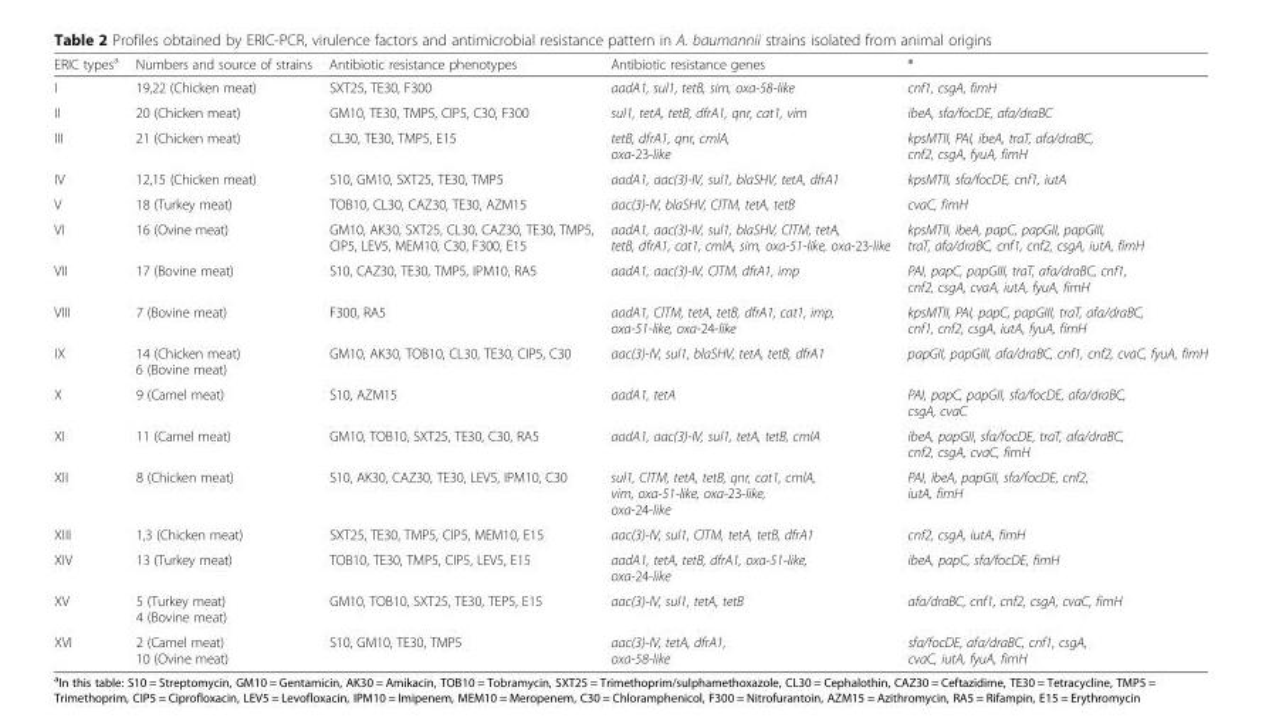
<table><thead><tr><td>ERIC types<sup>a</sup></td><td>Numbers and source of strains</td><td>Antibiotic resistance phenotypes</td><td>Antibiotic resistance genes</td><td>®</td></tr></thead><tbody><tr><td>I</td><td>19,22 (Chicken meat)</td><td>SXT25, TE30, F300</td><td>aadA1, sul1, tetB, sim, oxa-58-like</td><td>cnf1, csgA, fimH</td></tr><tr><td>II</td><td>20 (Chicken meat)</td><td>GM10, TE30, TMP5, CIP5, C30, F300</td><td>sul1, tetA, tetB, dfrA1, qnr, cat1, vim</td><td>ibeA, sfa/focDE, afa/draBC</td></tr><tr><td>III</td><td>21 (Chicken meat)</td><td>CL30, TE30, TMP5, E15</td><td>tetB, dfrA1, qnr, cmlA, oxa-23-like</td><td>kpsMTII, PAI, ibeA, traT, afa/draBC, cnf2, csgA, fyuA, fimH</td></tr><tr><td>IV</td><td>12,15 (Chicken meat)</td><td>S10, GM10, SXT25, TE30, TMP5</td><td>aadA1, aac(3)-IV, sul1, blaSHV, tetA, dfrA1</td><td>kpsMTII, sfa/focDE, cnf1, iutA</td></tr><tr><td>V</td><td>18 (Turkey meat)</td><td>TOB10, CL30, CAZ30, TE30, AZM15</td><td>aac(3)-IV, blaSHV, ClTM, tetA, tetB</td><td>cvaC, fimH</td></tr><tr><td>VI</td><td>16 (Ovine meat)</td><td>GM10, AK30, SXT25, CL30, CAZ30, TE30, TMP5, CIP5, LEV5, MEM10, C30, F300, E15</td><td>aadA1, aac(3)-IV, sul1, blaSHV, ClTM, tetA, tetB, dfrA1, cat1, cmlA, sim, oxa-51-like, oxa-23-like</td><td>kpsMTII, ibeA, papC, papGII, papGIII, traT, afa/draBC, cnf1, cnf2, csgA, iutA, fimH</td></tr><tr><td>VII</td><td>17 (Bovine meat)</td><td>S10, CAZ30, TE30, TMP5, IPM10, RA5</td><td>aadA1, aac(3)-IV, ClTM, dfrA1, imp</td><td>PAI, papC, papGIII, traT, afa/draBC, cnf1, cnf2, csgA, cvaA, iutA, fyuA, fimH</td></tr><tr><td>VIII</td><td>7 (Bovine meat)</td><td>F300, RA5</td><td>aadA1, ClTM, tetA, tetB, dfrA1, cat1, imp, oxa-51-like, oxa-24-like</td><td>kpsMTII, PAI, papC, papGIII, traT, afa/draBC, cnf1, cnf2, csgA, iutA, fyuA, fimH</td></tr><tr><td>IX</td><td>14 (Chicken meat) 6 (Bovine meat)</td><td>GM10, AK30, TOB10, CL30, TE30, CIP5, C30</td><td>aac(3)-IV, sul1, blaSHV, tetA, tetB, dfrA1</td><td>papGII, papGIII, afa/draBC, cnf1, cnf2, cvaC, fyuA, fimH</td></tr><tr><td>X</td><td>9 (Camel meat)</td><td>S10, AZM15</td><td>aadA1, tetA</td><td>PAI, papC, papGII, sfa/focDE, afa/draBC, csgA, cvaC</td></tr><tr><td>XI</td><td>11 (Camel meat)</td><td>GM10, TOB10, SXT25, TE30, C30, RA5</td><td>aadA1, aac(3)-IV, sul1, tetA, tetB, cmlA</td><td>ibeA, papGII, sfa/focDE, traT, afa/draBC, cnf2, csgA, cvaC, fimH</td></tr><tr><td>XII</td><td>8 (Chicken meat)</td><td>S10, AK30, CAZ30, TE30, LEV5, IPM10, C30</td><td>sul1, ClTM, tetA, tetB, qnr, cat1, cmlA, vim, oxa-51-like, oxa-23-like, oxa-24-like</td><td>PAI, ibeA, papGII, sfa/focDE, cnf2, iutA, fimH</td></tr><tr><td>XIII</td><td>1,3 (Chicken meat)</td><td>SXT25, TE30, TMP5, CIP5, MEM10, E15</td><td>aac(3)-IV, sul1, ClTM, tetA, tetB, dfrA1</td><td>cnf2, csgA, iutA, fimH</td></tr><tr><td>XIV</td><td>13 (Turkey meat)</td><td>TOB10, TE30, TMP5, CIP5, LEV5, E15</td><td>aadA1, tetA, tetB, dfrA1, oxa-51-like, oxa-24-like</td><td>ibeA, papC, sfa/focDE, fimH</td></tr><tr><td>XV</td><td>5 (Turkey meat) 4 (Bovine meat)</td><td>GM10, TOB10, SXT25, TE30, TEP5, E15</td><td>aac(3)-IV, sul1, tetA, tetB</td><td>afa/draBC, cnf1, cnf2, csgA, cvaC, fimH</td></tr><tr><td>XVI</td><td>2 (Camel meat) 10 (Ovine meat)</td><td>S10, GM10, TE30, TMP5</td><td>aac(3)-IV, tetA, dfrA1, oxa-58-like</td><td>sfa/focDE, afa/draBC, cnf1, csgA, cvaC, iutA, fyuA, fimH</td></tr></tbody></table>